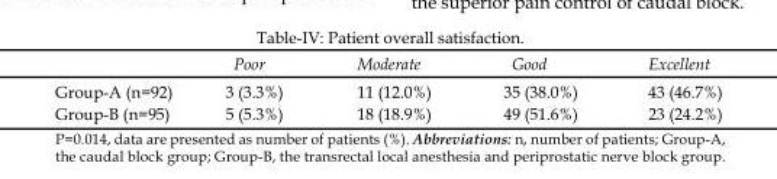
<table><thead><tr><td></td><td>Poor</td><td>Moderate</td><td>Good</td><td>Excellent</td></tr></thead><tbody><tr><td>Group-A (n=92)</td><td>3 (3.3%)</td><td>11 (12.0%)</td><td>35 (38.0%)</td><td>43 (46.7%)</td></tr><tr><td>Group-B (n=95)</td><td>5 (5.3%)</td><td>18 (18.9%)</td><td>49 (51.6%)</td><td>23 (24.2%)</td></tr></tbody></table>